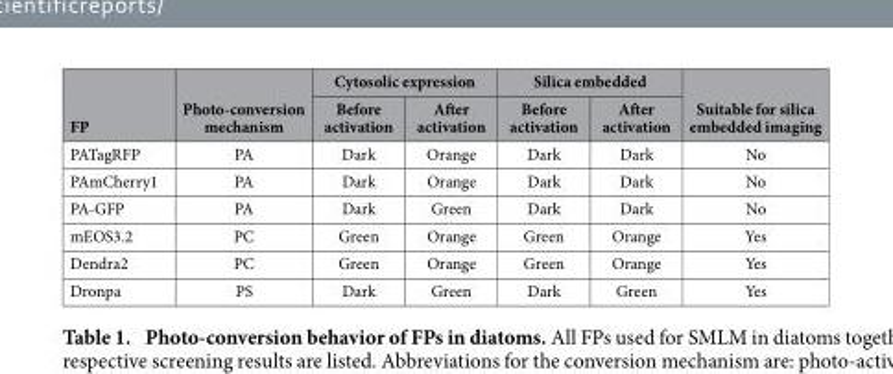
<table><thead><tr><td rowspan="2">FP</td><td rowspan="2">Photo-conversion mechanism</td><td colspan="2">Cytosolic expression</td><td colspan="2">Silica embedded</td><td rowspan="2">Suitable for silica embedded imaging</td></tr><tr><td>Before activation</td><td>After activation</td><td>Before activation</td><td>After activation</td></tr></thead><tbody><tr><td>PATagRFP</td><td>PA</td><td>Dark</td><td>Orange</td><td>Dark</td><td>Dark</td><td>No</td></tr><tr><td>PAmCherry1</td><td>PA</td><td>Dark</td><td>Orange</td><td>Dark</td><td>Dark</td><td>No</td></tr><tr><td>PA-GFP</td><td>PA</td><td>Dark</td><td>Green</td><td>Dark</td><td>Dark</td><td>No</td></tr><tr><td>mEOS3.2</td><td>PC</td><td>Green</td><td>Orange</td><td>Green</td><td>Orange</td><td>Yes</td></tr><tr><td>Dendra2</td><td>PC</td><td>Green</td><td>Orange</td><td>Green</td><td>Orange</td><td>Yes</td></tr><tr><td>Dronpa</td><td>PS</td><td>Dark</td><td>Green</td><td>Dark</td><td>Green</td><td>Yes</td></tr></tbody></table>